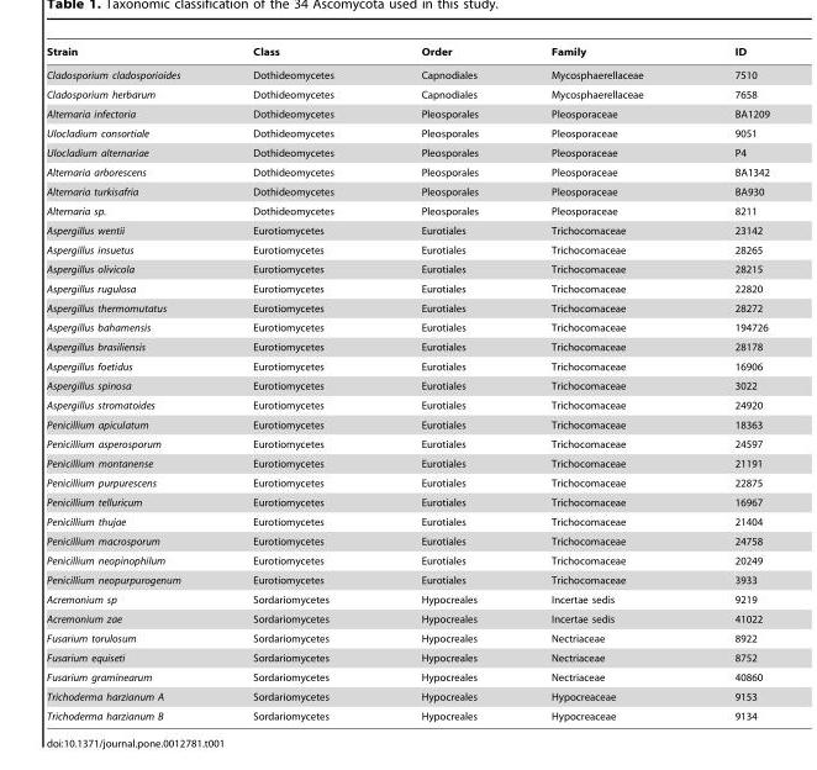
<table><thead><tr><td>Strain</td><td>Class</td><td>Order</td><td>Family</td><td>ID</td></tr></thead><tbody><tr><td>Cladosporium cladosporioides</td><td>Dothideomycetes</td><td>Capnodiales</td><td>Mycosphaerellaceae</td><td>7510</td></tr><tr><td>Cladosporium herbarum</td><td>Dothideomycetes</td><td>Capnodiales</td><td>Mycosphaerellaceae</td><td>7658</td></tr><tr><td>Alternaria infectoria</td><td>Dothideomycetes</td><td>Pleosporales</td><td>Pleosporaceae</td><td>BA1209</td></tr><tr><td>Ulocladium consortiale</td><td>Dothideomycetes</td><td>Pleosporales</td><td>Pleosporaceae</td><td>9051</td></tr><tr><td>Ulocladium alternariae</td><td>Dothideomycetes</td><td>Pleosporales</td><td>Pleosporaceae</td><td>P4</td></tr><tr><td>Alternaria arborescens</td><td>Dothideomycetes</td><td>Pleosporales</td><td>Pleosporaceae</td><td>BA1342</td></tr><tr><td>Alternaria turkisafria</td><td>Dothideomycetes</td><td>Pleosporales</td><td>Pleosporaceae</td><td>BA930</td></tr><tr><td>Alternaria sp.</td><td>Dothideomycetes</td><td>Pleosporales</td><td>Pleosporaceae</td><td>8211</td></tr><tr><td>Aspergillus wentii</td><td>Eurotiomycetes</td><td>Eurotiales</td><td>Trichocomaceae</td><td>23142</td></tr><tr><td>Aspergillus insuetus</td><td>Eurotiomycetes</td><td>Eurotiales</td><td>Trichocomaceae</td><td>28265</td></tr><tr><td>Aspergillus olivicola</td><td>Eurotiomycetes</td><td>Eurotiales</td><td>Trichocomaceae</td><td>28215</td></tr><tr><td>Aspergillus rugulosa</td><td>Eurotiomycetes</td><td>Eurotiales</td><td>Trichocomaceae</td><td>22820</td></tr><tr><td>Aspergillus thermomutatus</td><td>Eurotiomycetes</td><td>Eurotiales</td><td>Trichocomaceae</td><td>28272</td></tr><tr><td>Aspergillus bahamensis</td><td>Eurotiomycetes</td><td>Eurotiales</td><td>Trichocomaceae</td><td>194726</td></tr><tr><td>Aspergillus brasiliensis</td><td>Eurotiomycetes</td><td>Eurotiales</td><td>Trichocomaceae</td><td>28178</td></tr><tr><td>Aspergillus foetidus</td><td>Eurotiomycetes</td><td>Eurotiales</td><td>Trichocomaceae</td><td>16906</td></tr><tr><td>Aspergillus spinosa</td><td>Eurotiomycetes</td><td>Eurotiales</td><td>Trichocomaceae</td><td>3022</td></tr><tr><td>Aspergillus stromatoides</td><td>Eurotiomycetes</td><td>Eurotiales</td><td>Trichocomaceae</td><td>24920</td></tr><tr><td>Penicillium apiculatum</td><td>Eurotiomycetes</td><td>Eurotiales</td><td>Trichocomaceae</td><td>18363</td></tr><tr><td>Penicillium asperosporum</td><td>Eurotiomycetes</td><td>Eurotiales</td><td>Trichocomaceae</td><td>24597</td></tr><tr><td>Penicillium montanense</td><td>Eurotiomycetes</td><td>Eurotiales</td><td>Trichocomaceae</td><td>21191</td></tr><tr><td>Penicillium purpurescens</td><td>Eurotiomycetes</td><td>Eurotiales</td><td>Trichocomaceae</td><td>22875</td></tr><tr><td>Penicillium telluricum</td><td>Eurotiomycetes</td><td>Eurotiales</td><td>Trichocomaceae</td><td>16967</td></tr><tr><td>Penicillium thujae</td><td>Eurotiomycetes</td><td>Eurotiales</td><td>Trichocomaceae</td><td>21404</td></tr><tr><td>Penicillium macrosporum</td><td>Eurotiomycetes</td><td>Eurotiales</td><td>Trichocomaceae</td><td>24758</td></tr><tr><td>Penicillium neopinophilum</td><td>Eurotiomycetes</td><td>Eurotiales</td><td>Trichocomaceae</td><td>20249</td></tr><tr><td>Penicillium neopurpurogenum</td><td>Eurotiomycetes</td><td>Eurotiales</td><td>Trichocomaceae</td><td>3933</td></tr><tr><td>Acremonium sp</td><td>Sordariomycetes</td><td>Hypocreales</td><td>Incertae sedis</td><td>9219</td></tr><tr><td>Acremonium zae</td><td>Sordariomycetes</td><td>Hypocreales</td><td>Incertae sedis</td><td>41022</td></tr><tr><td>Fusarium torulosum</td><td>Sordariomycetes</td><td>Hypocreales</td><td>Nectriaceae</td><td>8922</td></tr><tr><td>Fusarium equiseti</td><td>Sordariomycetes</td><td>Hypocreales</td><td>Nectriaceae</td><td>8752</td></tr><tr><td>Fusarium graminearum</td><td>Sordariomycetes</td><td>Hypocreales</td><td>Nectriaceae</td><td>40860</td></tr><tr><td>Trichoderma harzianum A</td><td>Sordariomycetes</td><td>Hypocreales</td><td>Hypocreaceae</td><td>9153</td></tr><tr><td>Trichoderma harzianum B</td><td>Sordariomycetes</td><td>Hypocreales</td><td>Hypocreaceae</td><td>9134</td></tr></tbody></table>